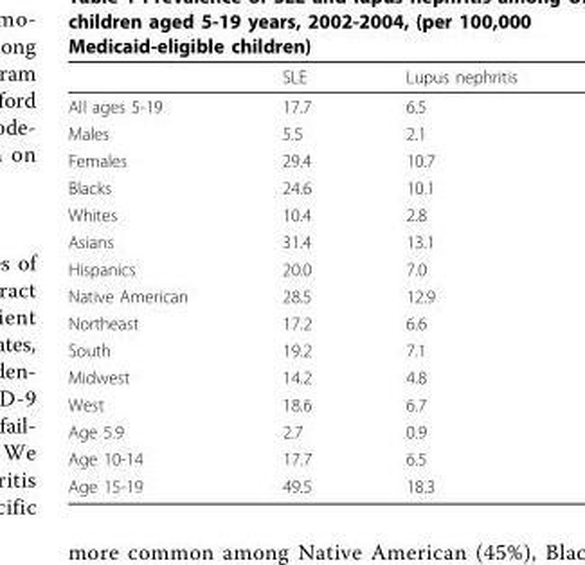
<table><thead><tr><td></td><td>SLE</td><td>Lupus nephritis</td></tr></thead><tbody><tr><td>All ages 5-19</td><td>17.7</td><td>6.5</td></tr><tr><td>Males</td><td>5.5</td><td>2.1</td></tr><tr><td>Females</td><td>29.4</td><td>10.7</td></tr><tr><td>Blacks</td><td>24.6</td><td>10.1</td></tr><tr><td>Whites</td><td>10.4</td><td>2.8</td></tr><tr><td>Asians</td><td>31.4</td><td>13.1</td></tr><tr><td>Hispanics</td><td>20.0</td><td>7.0</td></tr><tr><td>Native American</td><td>28.5</td><td>12.9</td></tr><tr><td>Northeast</td><td>17.2</td><td>6.6</td></tr><tr><td>South</td><td>19.2</td><td>7.1</td></tr><tr><td>Midwest</td><td>14.2</td><td>4.8</td></tr><tr><td>West</td><td>18.6</td><td>6.7</td></tr><tr><td>Age 5.9</td><td>2.7</td><td>0.9</td></tr><tr><td>Age 10-14</td><td>17.7</td><td>6.5</td></tr><tr><td>Age 15-19</td><td>49.5</td><td>18.3</td></tr></tbody></table>